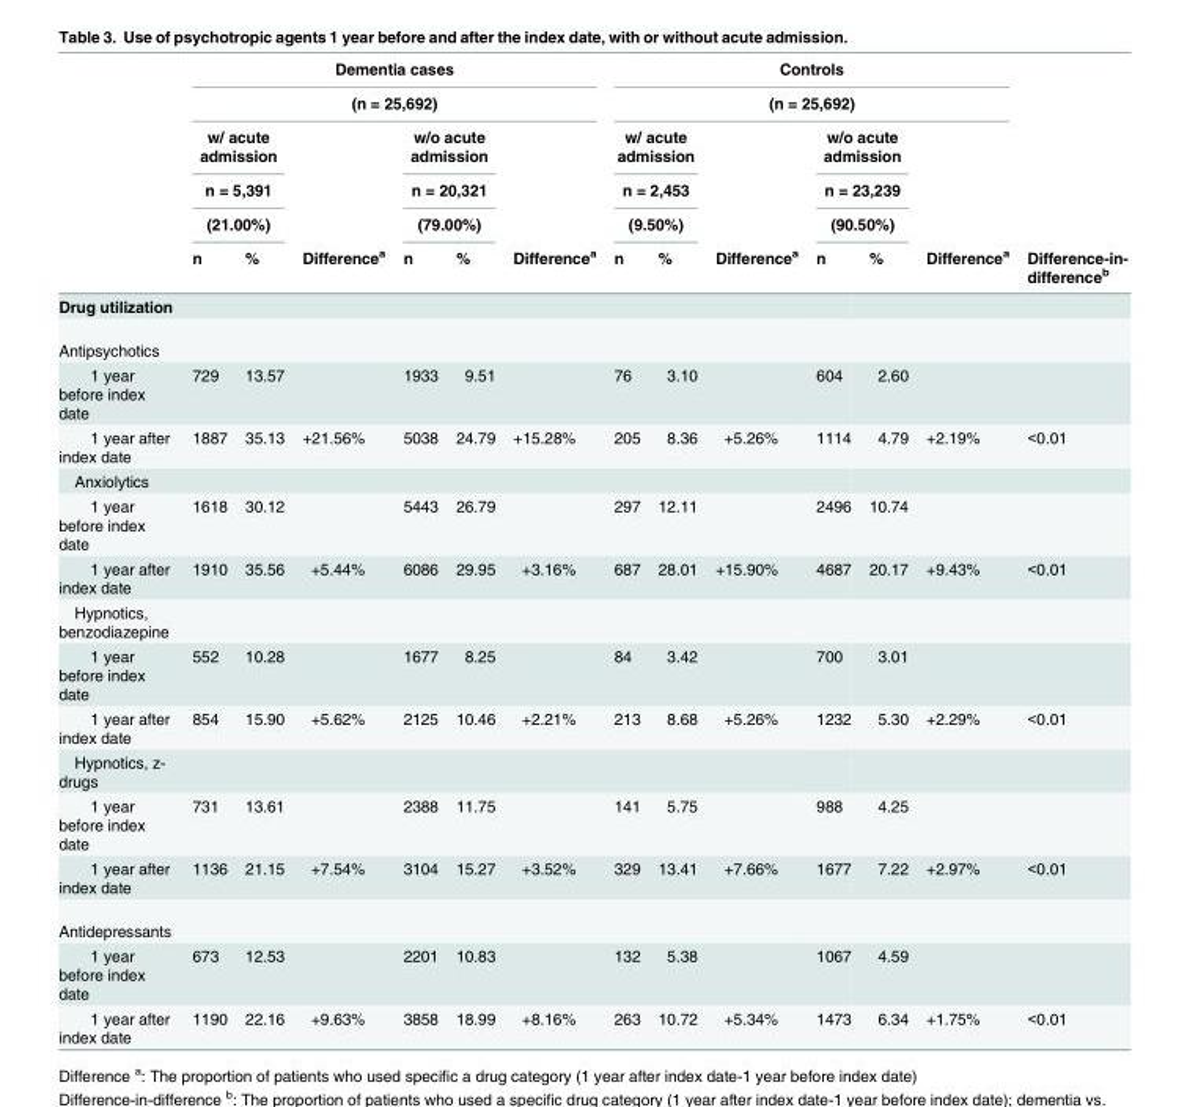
<table><thead><tr><td rowspan="6"></td><td rowspan="2" colspan="6">Dementia cases (n = 25,692)</td><td rowspan="2" colspan="6">Controls (n = 25,692)</td><td rowspan="6">Difference-in- difference<sup>b</sup></td></tr><tr></tr><tr><td rowspan="3" colspan="2">w/ acute admission n = 5,391 (21.00%)</td><td rowspan="4">Difference<sup>a</sup></td><td rowspan="3" colspan="2">w/o acute admission n = 20,321 (79.00%)</td><td rowspan="4">Difference<sup>a</sup></td><td rowspan="3" colspan="2">w/ acute admission n = 2,453 (9.50%)</td><td rowspan="4">Difference<sup>a</sup></td><td rowspan="3" colspan="2">w/o acute admission n = 23,239 (90.50%)</td><td rowspan="4">Difference<sup>a</sup></td></tr><tr></tr><tr></tr><tr><td>n</td><td>%</td><td>n</td><td>%</td><td>n</td><td>%</td><td>n</td><td>%</td></tr></thead><tbody><tr><td colspan="14">Drug utilization</td></tr><tr><td colspan="14">Antipsychotics</td></tr><tr><td>1 year before index date</td><td>729</td><td>13.57</td><td></td><td>1933</td><td>9.51</td><td></td><td>76</td><td>3.10</td><td></td><td>604</td><td>2.60</td><td></td><td></td></tr><tr><td>1 year after index date</td><td>1887</td><td>35.13</td><td>+21.56%</td><td>5038</td><td>24.79</td><td>+15.28%</td><td>205</td><td>8.36</td><td>+5.26%</td><td>1114</td><td>4.79</td><td>+2.19%</td><td>&lt;0.01</td></tr><tr><td colspan="14">Anxiolytics</td></tr><tr><td>1 year before index date</td><td>1618</td><td>30.12</td><td></td><td>5443</td><td>26.79</td><td></td><td>297</td><td>12.11</td><td></td><td>2496</td><td>10.74</td><td></td><td></td></tr><tr><td>1 year after index date</td><td>1910</td><td>35.56</td><td>+5.44%</td><td>6086</td><td>29.95</td><td>+3.16%</td><td>687</td><td>28.01</td><td>+15.90%</td><td>4687</td><td>20.17</td><td>+9.43%</td><td>&lt;0.01</td></tr><tr><td colspan="14">Hypnotics, benzodiazepine</td></tr><tr><td>1 year before index date</td><td>552</td><td>10.28</td><td></td><td>1677</td><td>8.25</td><td></td><td>84</td><td>3.42</td><td></td><td>700</td><td>3.01</td><td></td><td></td></tr><tr><td>1 year after index date</td><td>854</td><td>15.90</td><td>+5.62%</td><td>2125</td><td>10.46</td><td>+2.21%</td><td>213</td><td>8.68</td><td>+5.26%</td><td>1232</td><td>5.30</td><td>+2.29%</td><td>&lt;0.01</td></tr><tr><td colspan="14">Hypnotics, z- drugs</td></tr><tr><td>1 year before index date</td><td>731</td><td>13.61</td><td></td><td>2388</td><td>11.75</td><td></td><td>141</td><td>5.75</td><td></td><td>988</td><td>4.25</td><td></td><td></td></tr><tr><td>1 year after index date</td><td>1136</td><td>21.15</td><td>+7.54%</td><td>3104</td><td>15.27</td><td>+3.52%</td><td>329</td><td>13.41</td><td>+7.66%</td><td>1677</td><td>7.22</td><td>+2.97%</td><td>&lt;0.01</td></tr><tr><td colspan="14">Antidepressants</td></tr><tr><td>1 year before index date</td><td>673</td><td>12.53</td><td></td><td>2201</td><td>10.83</td><td></td><td>132</td><td>5.38</td><td></td><td>1067</td><td>4.59</td><td></td><td></td></tr><tr><td>1 year after index date</td><td>1190</td><td>22.16</td><td>+9.63%</td><td>3858</td><td>18.99</td><td>+8.16%</td><td>263</td><td>10.72</td><td>+5.34%</td><td>1473</td><td>6.34</td><td>+1.75%</td><td>&lt;0.01</td></tr></tbody></table>